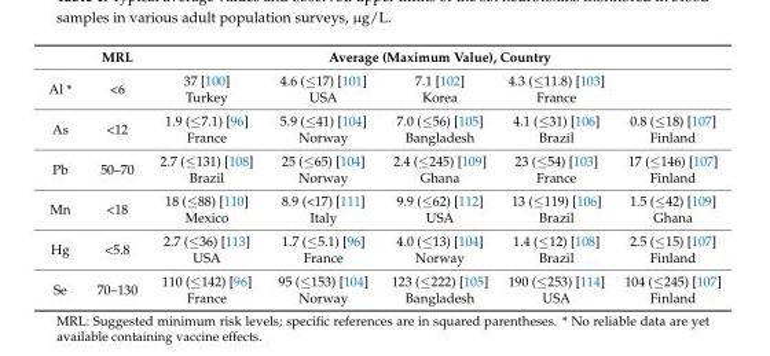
<table><thead><tr><td rowspan="2">Al *</td><td rowspan="2">MRL &lt;6</td><td colspan="5">Average (Maximum Value), Country</td></tr><tr><td>37 [100] Turkey</td><td>4.6 (≤17) [101] USA</td><td>7.1 [102] Korea</td><td>4.3 (≤11.8) [103] France</td><td></td></tr></thead><tbody><tr><td>As</td><td>&lt;12</td><td>1.9 (≤7.1) [96] France</td><td>5.9 (≤41) [104] Norway</td><td>7.0 (≤56) [105] Bangladesh</td><td>4.1 (≤31) [106] Brazil</td><td>0.8 (≤18) [107] Finland</td></tr><tr><td>Pb</td><td>50–70</td><td>2.7 (≤131) [108] Brazil</td><td>25 (≤65) [104] Norway</td><td>2.4 (≤245) [109] Ghana</td><td>23 (≤54) [103] France</td><td>17 (≤146) [107] Finland</td></tr><tr><td>Mn</td><td>&lt;18</td><td>18 (≤88) [110] Mexico</td><td>8.9 (&lt;17) [111] Italy</td><td>9.9 (≤62) [112] USA</td><td>13 (≤119) [106] Brazil</td><td>1.5 (≤42) [109] Ghana</td></tr><tr><td>Hg</td><td>&lt;5.8</td><td>2.7 (≤36) [113] USA</td><td>1.7 (≤5.1) [96] France</td><td>4.0 (≤13) [104] Norway</td><td>1.4 (≤12) [108] Brazil</td><td>2.5 (≤15) [107] Finland</td></tr><tr><td>Se</td><td>70–130</td><td>110 (≤142) [96] France</td><td>95 (≤153) [104] Norway</td><td>123 (≤222) [105] Bangladesh</td><td>190 (≤253) [114] USA</td><td>104 (≤245) [107] Finland</td></tr></tbody></table>